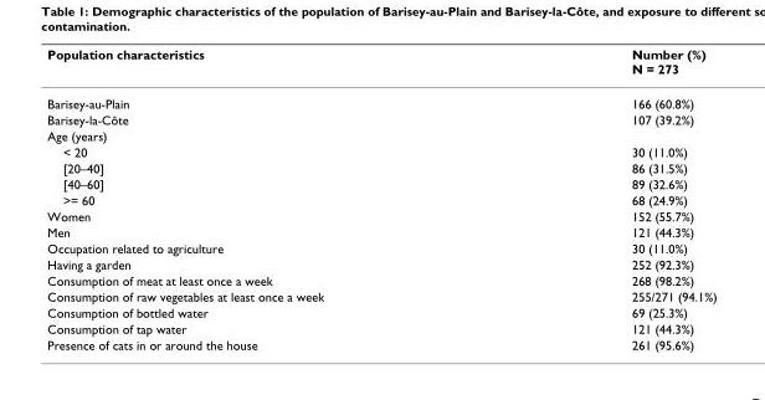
<table><thead><tr><td>Population characteristics</td><td>Number (%) N = 273</td></tr></thead><tbody><tr><td>Barisey-au-Plain</td><td>166 (60.8%)</td></tr><tr><td>Barisey-la-Côte</td><td>107 (39.2%)</td></tr><tr><td colspan="2">Age (years)</td></tr><tr><td>&lt; 20</td><td>30 (11.0%)</td></tr><tr><td>[20–40]</td><td>86 (31.5%)</td></tr><tr><td>[40–60]</td><td>89 (32.6%)</td></tr><tr><td>&gt;= 60</td><td>68 (24.9%)</td></tr><tr><td>Women</td><td>152 (55.7%)</td></tr><tr><td>Men</td><td>121 (44.3%)</td></tr><tr><td>Occupation related to agriculture</td><td>30 (11.0%)</td></tr><tr><td>Having a garden</td><td>252 (92.3%)</td></tr><tr><td>Consumption of meat at least once a week</td><td>268 (98.2%)</td></tr><tr><td>Consumption of raw vegetables at least once a week</td><td>255/271 (94.1%)</td></tr><tr><td>Consumption of bottled water</td><td>69 (25.3%)</td></tr><tr><td>Consumption of tap water</td><td>121 (44.3%)</td></tr><tr><td>Presence of cats in or around the house</td><td>261 (95.6%)</td></tr></tbody></table>